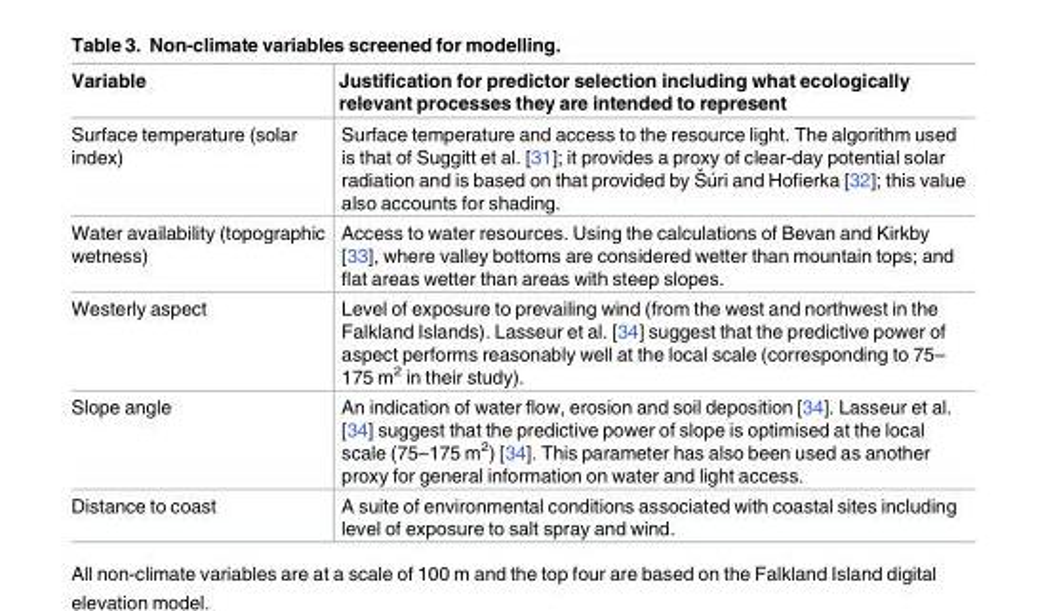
<table><thead><tr><td>Variable</td><td>Justification for predictor selection including what ecologically relevant processes they are intended to represent</td></tr></thead><tbody><tr><td>Surface temperature (solar index)</td><td>Surface temperature and access to the resource light. The algorithm used is that of Suggitt et al. [31]; it provides a proxy of clear-day potential solar radiation and is based on that provided by Sˇ u´ri and Hofierka [32]; this value also accounts for shading.</td></tr><tr><td>Water availability (topographic wetness)</td><td>Access to water resources. Using the calculations of Bevan and Kirkby [33], where valley bottoms are considered wetter than mountain tops; and flat areas wetter than areas with steep slopes.</td></tr><tr><td>Westerly aspect</td><td>Level of exposure to prevailing wind (from the west and northwest in the Falkland Islands). Lasseur et al. [34] suggest that the predictive power of aspect performs reasonably well at the local scale (corresponding to 75– 175 m<sup>2</sup> in their study).</td></tr><tr><td>Slope angle</td><td>An indication of water flow, erosion and soil deposition [34]. Lasseur et al. [34] suggest that the predictive power of slope is optimised at the local scale (75–175 m<sup>2</sup>) [34]. This parameter has also been used as another proxy for general information on water and light access.</td></tr><tr><td>Distance to coast</td><td>A suite of environmental conditions associated with coastal sites including level of exposure to salt spray and wind.</td></tr></tbody></table>